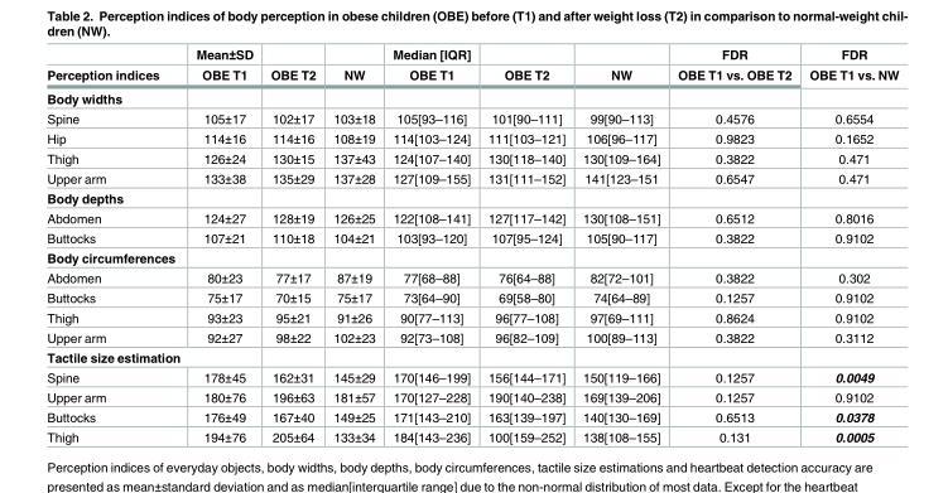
<table><thead><tr><td rowspan="2">Perception indices</td><td rowspan="2">Mean±SD OBE T1</td><td rowspan="2">OBE T2</td><td rowspan="2">NW</td><td rowspan="2">Median [IQR] OBE T1</td><td rowspan="2">OBE T2</td><td rowspan="2">NW</td><td rowspan="2">FDR OBE T1 vs. OBE T2</td><td rowspan="2">FDR OBE T1 vs. NW</td></tr><tr></tr></thead><tbody><tr><td colspan="9">Body widths</td></tr><tr><td>Spine</td><td>105±17</td><td>102±17</td><td>103±18</td><td>105[93–116]</td><td>101[90–111]</td><td>99[90–113]</td><td>0.4576</td><td>0.6554</td></tr><tr><td>Hip</td><td>114±16</td><td>114±16</td><td>108±19</td><td>114[103–124]</td><td>111[103–121]</td><td>106[96–117]</td><td>0.9823</td><td>0.1652</td></tr><tr><td>Thigh</td><td>126±24</td><td>130±15</td><td>137±43</td><td>124[107–140]</td><td>130[118–140]</td><td>130[109–164]</td><td>0.3822</td><td>0.471</td></tr><tr><td>Upper arm</td><td>133±38</td><td>135±29</td><td>137±28</td><td>127[109–155]</td><td>131[111–152]</td><td>141[123–151</td><td>0.6547</td><td>0.471</td></tr><tr><td colspan="9">Body depths</td></tr><tr><td>Abdomen</td><td>124±27</td><td>128±19</td><td>126±25</td><td>122[108–141]</td><td>127[117–142]</td><td>130[108–151]</td><td>0.6512</td><td>0.8016</td></tr><tr><td>Buttocks</td><td>107±21</td><td>110±18</td><td>104±21</td><td>103[93–120]</td><td>107[95–124]</td><td>105[90–117]</td><td>0.3822</td><td>0.9102</td></tr><tr><td colspan="9">Body circumferences</td></tr><tr><td>Abdomen</td><td>80±23</td><td>77±17</td><td>87±19</td><td>77[68–88]</td><td>76[64–88]</td><td>82[72–101]</td><td>0.3822</td><td>0.302</td></tr><tr><td>Buttocks</td><td>75±17</td><td>70±15</td><td>75±17</td><td>73[64–90]</td><td>69[58–80]</td><td>74[64–89]</td><td>0.1257</td><td>0.9102</td></tr><tr><td>Thigh</td><td>93±23</td><td>95±21</td><td>91±26</td><td>90[77–113]</td><td>96[77–108]</td><td>97[69–111]</td><td>0.8624</td><td>0.9102</td></tr><tr><td>Upper arm</td><td>92±27</td><td>98±22</td><td>102±23</td><td>92[73–108]</td><td>96[82–109]</td><td>100[89–113]</td><td>0.3822</td><td>0.3112</td></tr><tr><td colspan="9">Tactile size estimation</td></tr><tr><td>Spine</td><td>178±45</td><td>162±31</td><td>145±29</td><td>170[146–199]</td><td>156[144–171]</td><td>150[119–166]</td><td>0.1257</td><td>0.0049</td></tr><tr><td>Upper arm</td><td>180±76</td><td>196±63</td><td>181±57</td><td>170[127–228]</td><td>190[140–238]</td><td>169[139–206]</td><td>0.1257</td><td>0.9102</td></tr><tr><td>Buttocks</td><td>176±49</td><td>167±40</td><td>149±25</td><td>171[143–210]</td><td>163[139–197]</td><td>140[130–169]</td><td>0.6513</td><td>0.0378</td></tr><tr><td>Thigh</td><td>194±76</td><td>205±64</td><td>133±34</td><td>184[143–236]</td><td>100[159–252]</td><td>138[108–155]</td><td>0.131</td><td>0.0005</td></tr></tbody></table>